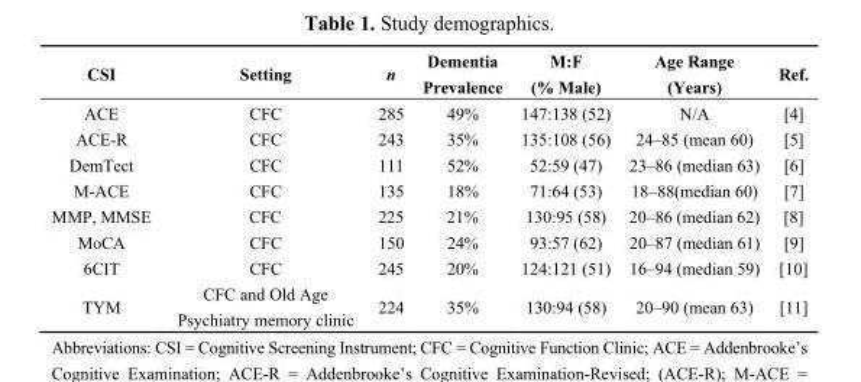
<table><thead><tr><td>CSI</td><td>Setting</td><td>n</td><td>Dementia Prevalence</td><td>M:F (% Male)</td><td>Age Range (Years)</td><td>Ref.</td></tr></thead><tbody><tr><td>ACE</td><td>CFC</td><td>285</td><td>49%</td><td>147:138 (52)</td><td>N/A</td><td>[4]</td></tr><tr><td>ACE-R</td><td>CFC</td><td>243</td><td>35%</td><td>135:108 (56)</td><td>24–85 (mean 60)</td><td>[5]</td></tr><tr><td>DemTect</td><td>CFC</td><td>111</td><td>52%</td><td>52:59 (47)</td><td>23–86 (median 63)</td><td>[6]</td></tr><tr><td>M-ACE</td><td>CFC</td><td>135</td><td>18%</td><td>71:64 (53)</td><td>18–88(median 60)</td><td>[7]</td></tr><tr><td>MMP, MMSE</td><td>CFC</td><td>225</td><td>21%</td><td>130:95 (58)</td><td>20–86 (median 62)</td><td>[8]</td></tr><tr><td>MoCA</td><td>CFC</td><td>150</td><td>24%</td><td>93:57 (62)</td><td>20–87 (median 61)</td><td>[9]</td></tr><tr><td>6CIT</td><td>CFC</td><td>245</td><td>20%</td><td>124:121 (51)</td><td>16–94 (median 59)</td><td>[10]</td></tr><tr><td>TYM</td><td>CFC and Old Age Psychiatry memory clinic</td><td>224</td><td>35%</td><td>130:94 (58)</td><td>20–90 (mean 63)</td><td>[11]</td></tr></tbody></table>